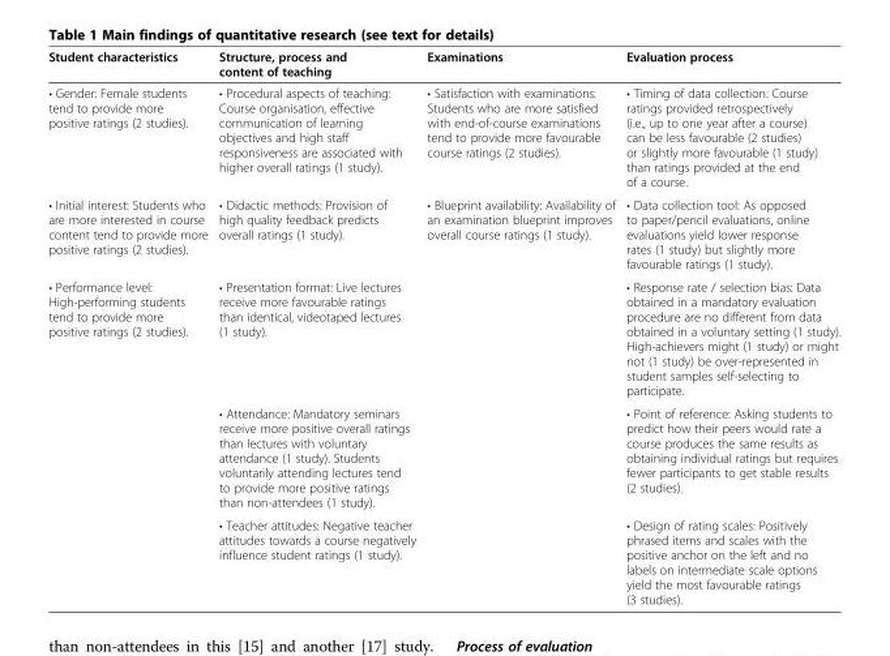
<table><thead><tr><td>Student characteristics</td><td>Structure, process and content of teaching</td><td>Examinations</td><td>Evaluation process</td></tr></thead><tbody><tr><td>• Gender: Female students tend to provide more positive ratings (2 studies).</td><td>• Procedural aspects of teaching: Course organisation, effective communication of learning objectives and high staff responsiveness are associated with higher overall ratings (1 study).</td><td>• Satisfaction with examinations: Students who are more satisfied with end-of-course examinations tend to provide more favourable course ratings (2 studies).</td><td>• Timing of data collection: Course ratings provided retrospectively (i.e., up to one year after a course) can be less favourable (2 studies) or slightly more favourable (1 study) than ratings provided at the end of a course.</td></tr><tr><td>• Initial interest: Students who are more interested in course content tend to provide more positive ratings (2 studies).</td><td>• Didactic methods: Provision of high quality feedback predicts overall ratings (1 study).</td><td>• Blueprint availability: Availability of an examination blueprint improves overall course ratings (1 study).</td><td>• Data collection tool: As opposed to paper/pencil evaluations, online evaluations yield lower response rates (1 study) but slightly more favourable ratings (1 study).</td></tr><tr><td rowspan="3">• Performance level: High-performing students tend to provide more positive ratings (2 studies).</td><td>• Presentation format: Live lectures receive more favourable ratings than identical, videotaped lectures (1 study).</td><td></td><td>• Response rate / selection bias: Data obtained in a mandatory evaluation procedure are no different from data obtained in a voluntary setting (1 study). High-achievers might (1 study) or might not (1 study) be over-represented in student samples self-selecting to participate.</td></tr><tr><td>• Attendance: Mandatory seminars receive more positive overall ratings than lectures with voluntary attendance (1 study). Students voluntarily attending lectures tend to provide more positive ratings than non-attendees (1 study).</td><td></td><td>• Point of reference: Asking students to predict how their peers would rate a course produces the same results as obtaining individual ratings but requires fewer participants to get stable results (2 studies).</td></tr><tr><td>• Teacher attitudes: Negative teacher attitudes towards a course negatively influence student ratings (1 study).</td><td></td><td>• Design of rating scales: Positively phrased items and scales with the positive anchor on the left and no labels on intermediate scale options yield the most favourable ratings (3 studies).</td></tr></tbody></table>